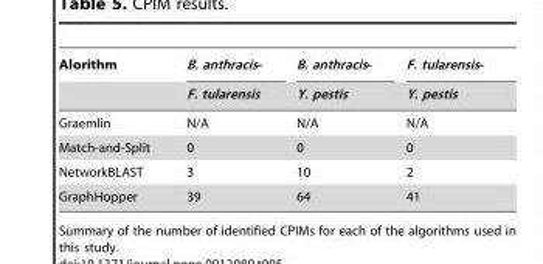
<table><thead><tr><td rowspan="2">Alorithm</td><td rowspan="2">B. anthracis- F. tularensis</td><td rowspan="2">B. anthracis- Y. pestis</td><td rowspan="2">F. tularensis- Y. pestis</td></tr><tr></tr></thead><tbody><tr><td>Graemlin</td><td>N/A</td><td>N/A</td><td>N/A</td></tr><tr><td>Match-and-Split</td><td>0</td><td>0</td><td>0</td></tr><tr><td>NetworkBLAST</td><td>3</td><td>10</td><td>2</td></tr><tr><td>GraphHopper</td><td>39</td><td>64</td><td>41</td></tr></tbody></table>